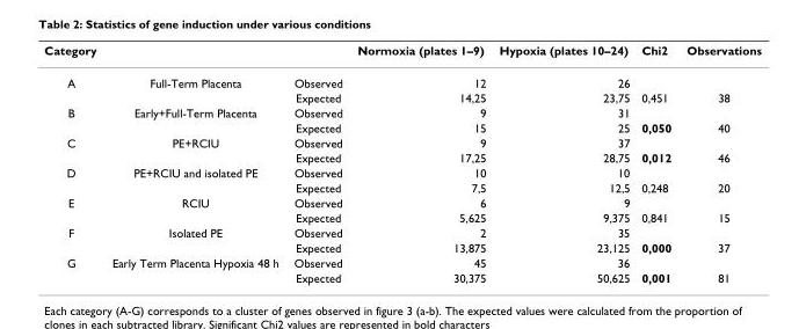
<table><thead><tr><td>Category</td><td></td><td></td><td>Normoxia (plates 1–9)</td><td>Hypoxia (plates 10–24)</td><td>Chi2</td><td>Observations</td></tr></thead><tbody><tr><td rowspan="2">A</td><td>Full-Term Placenta</td><td>Observed</td><td>12</td><td>26</td><td></td><td></td></tr><tr><td></td><td>Expected</td><td>14,25</td><td>23,75</td><td>0,451</td><td>38</td></tr><tr><td rowspan="2">B</td><td>Early+Full-Term Placenta</td><td>Observed</td><td>9</td><td>31</td><td></td><td></td></tr><tr><td></td><td>Expected</td><td>15</td><td>25</td><td>0,050</td><td>40</td></tr><tr><td rowspan="2">C</td><td>PE+RCIU</td><td>Observed</td><td>9</td><td>37</td><td></td><td></td></tr><tr><td></td><td>Expected</td><td>17,25</td><td>28,75</td><td>0,012</td><td>46</td></tr><tr><td rowspan="2">D</td><td>PE+RCIU and isolated PE</td><td>Observed</td><td>10</td><td>10</td><td></td><td></td></tr><tr><td></td><td>Expected</td><td>7,5</td><td>12,5</td><td>0,248</td><td>20</td></tr><tr><td rowspan="2">E</td><td>RCIU</td><td>Observed</td><td>6</td><td>9</td><td></td><td></td></tr><tr><td></td><td>Expected</td><td>5,625</td><td>9,375</td><td>0,841</td><td>15</td></tr><tr><td rowspan="2">F</td><td>Isolated PE</td><td>Observed</td><td>2</td><td>35</td><td></td><td></td></tr><tr><td></td><td>Expected</td><td>13,875</td><td>23,125</td><td>0,000</td><td>37</td></tr><tr><td rowspan="2">G</td><td>Early Term Placenta Hypoxia 48 h</td><td>Observed</td><td>45</td><td>36</td><td></td><td></td></tr><tr><td></td><td>Expected</td><td>30,375</td><td>50,625</td><td>0,001</td><td>81</td></tr></tbody></table>